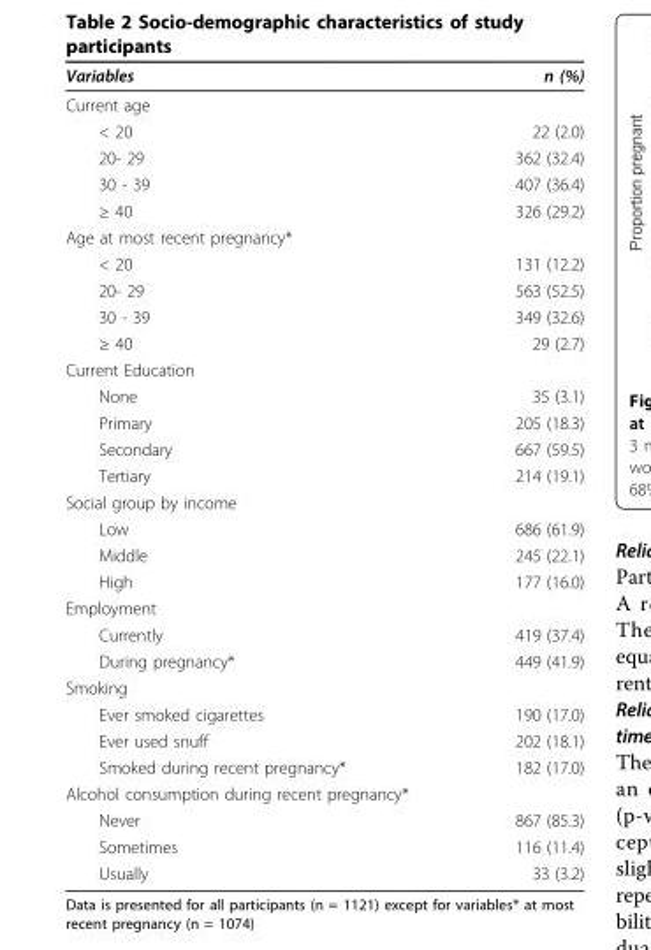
<table><thead><tr><td>Variables</td><td>n (%)</td></tr></thead><tbody><tr><td colspan="2">Current age</td></tr><tr><td>&lt; 20</td><td>22 (2.0)</td></tr><tr><td>20- 29</td><td>362 (32.4)</td></tr><tr><td>30 - 39</td><td>407 (36.4)</td></tr><tr><td>≥ 40</td><td>326 (29.2)</td></tr><tr><td colspan="2">Age at most recent pregnancy*</td></tr><tr><td>&lt; 20</td><td>131 (12.2)</td></tr><tr><td>20- 29</td><td>563 (52.5)</td></tr><tr><td>30 - 39</td><td>349 (32.6)</td></tr><tr><td>≥ 40</td><td>29 (2.7)</td></tr><tr><td colspan="2">Current Education</td></tr><tr><td>None</td><td>35 (3.1)</td></tr><tr><td>Primary</td><td>205 (18.3)</td></tr><tr><td>Secondary</td><td>667 (59.5)</td></tr><tr><td>Tertiary</td><td>214 (19.1)</td></tr><tr><td colspan="2">Social group by income</td></tr><tr><td>Low</td><td>686 (61.9)</td></tr><tr><td>Middle</td><td>245 (22.1)</td></tr><tr><td>High</td><td>177 (16.0)</td></tr><tr><td colspan="2">Employment</td></tr><tr><td>Currently</td><td>419 (37.4)</td></tr><tr><td>During pregnancy*</td><td>449 (41.9)</td></tr><tr><td colspan="2">Smoking</td></tr><tr><td>Ever smoked cigarettes</td><td>190 (17.0)</td></tr><tr><td>Ever used snuff</td><td>202 (18.1)</td></tr><tr><td>Smoked during recent pregnancy*</td><td>182 (17.0)</td></tr><tr><td colspan="2">Alcohol consumption during recent pregnancy*</td></tr><tr><td>Never</td><td>867 (85.3)</td></tr><tr><td>Sometimes</td><td>116 (11.4)</td></tr><tr><td>Usually</td><td>33 (3.2)</td></tr></tbody></table>